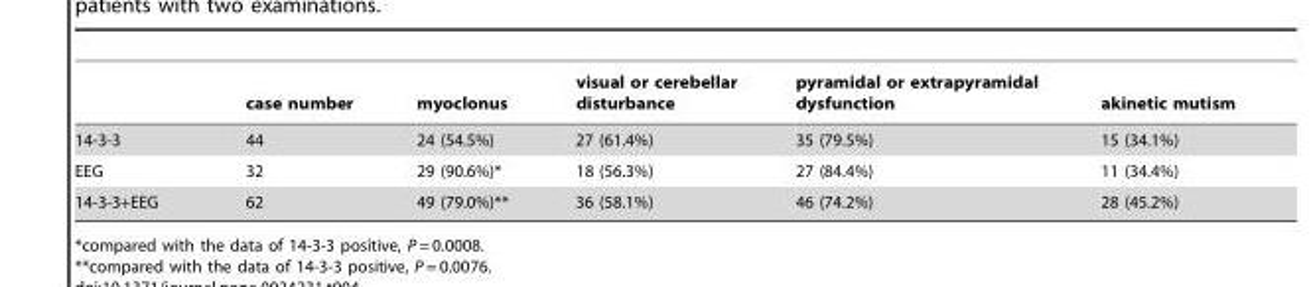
<table><thead><tr><td></td><td>case number</td><td>myoclonus</td><td>visual or cerebellar disturbance</td><td>pyramidal or extrapyramidal dysfunction</td><td>akinetic mutism</td></tr></thead><tbody><tr><td>14-3-3</td><td>44</td><td>24 (54.5%)</td><td>27 (61.4%)</td><td>35 (79.5%)</td><td>15 (34.1%)</td></tr><tr><td>EEG</td><td>32</td><td>29 (90.6%)*</td><td>18 (56.3%)</td><td>27 (84.4%)</td><td>11 (34.4%)</td></tr><tr><td>14-3-3+EEG</td><td>62</td><td>49 (79.0%)**</td><td>36 (58.1%)</td><td>46 (74.2%)</td><td>28 (45.2%)</td></tr></tbody></table>